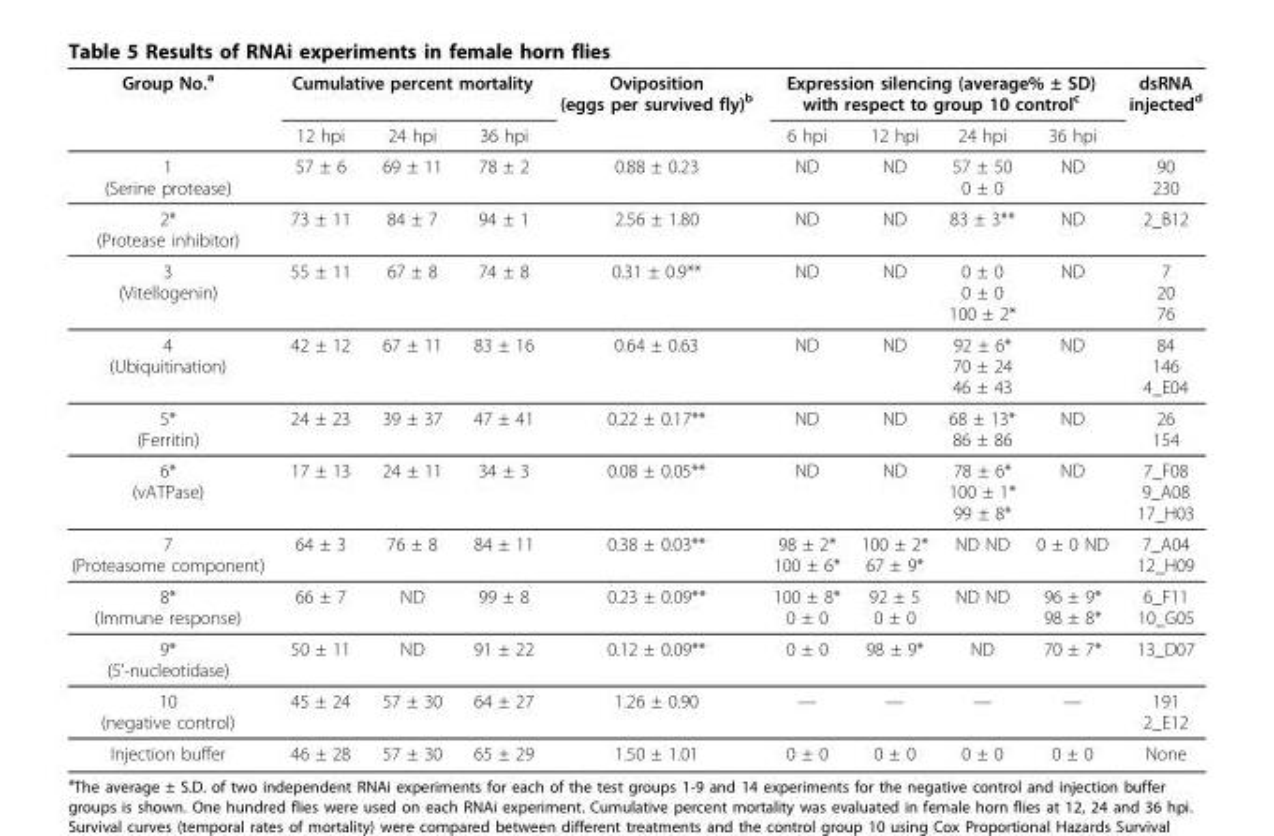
<table><thead><tr><td rowspan="2">Group No.<sup>a</sup></td><td colspan="3">Cumulative percent mortality</td><td rowspan="2">Oviposition (eggs per survived fly)<sup>b</sup></td><td colspan="4">Expression silencing (average% ± SD) with respect to group 10 control<sup>c</sup></td><td rowspan="2">dsRNA injected<sup>d</sup></td></tr><tr><td>12 hpi</td><td>24 hpi</td><td>36 hpi</td><td>6 hpi</td><td>12 hpi</td><td>24 hpi</td><td>36 hpi</td></tr></thead><tbody><tr><td>1 (Serine protease)</td><td>57 ± 6</td><td>69 ± 11</td><td>78 ± 2</td><td>0.88 ± 0.23</td><td>ND</td><td>ND</td><td>57 ± 50 0 ± 0</td><td>ND</td><td>90 230</td></tr><tr><td>2* (Protease inhibitor)</td><td>73 ± 11</td><td>84 ± 7</td><td>94 ± 1</td><td>2.56 ± 1.80</td><td>ND</td><td>ND</td><td>83 ± 3**</td><td>ND</td><td>2_B12</td></tr><tr><td>3 (Vitellogenin)</td><td>55 ± 11</td><td>67 ± 8</td><td>74 ± 8</td><td>0.31 ± 0.9**</td><td>ND</td><td>ND</td><td>0 ± 0 0 ± 0 100 ± 2*</td><td>ND</td><td>7 20 76</td></tr><tr><td>4 (Ubiquitination)</td><td>42 ± 12</td><td>67 ± 11</td><td>83 ± 16</td><td>0.64 ± 0.63</td><td>ND</td><td>ND</td><td>92 ± 6* 70 ± 24 46 ± 43</td><td>ND</td><td>84 146 4_E04</td></tr><tr><td>5* (Ferritin)</td><td>24 ± 23</td><td>39 ± 37</td><td>47 ± 41</td><td>0.22 ± 0.17**</td><td>ND</td><td>ND</td><td>68 ± 13* 86 ± 86</td><td>ND</td><td>26 154</td></tr><tr><td>6* (vATPase)</td><td>17 ± 13</td><td>24 ± 11</td><td>34 ± 3</td><td>0.08 ± 0.05**</td><td>ND</td><td>ND</td><td>78 ± 6* 100 ± 1* 99 ± 8*</td><td>ND</td><td>7_F08 9_A08 17_H03</td></tr><tr><td>7 (Proteasome component)</td><td>64 ± 3</td><td>76 ± 8</td><td>84 ± 11</td><td>0.38 ± 0.03**</td><td>98 ± 2* 100 ± 6*</td><td>100 ± 2* 67 ± 9*</td><td>ND ND</td><td>0 ± 0 ND</td><td>7_A04 12_H09</td></tr><tr><td>8* (Immune response)</td><td>66 ± 7</td><td>ND</td><td>99 ± 8</td><td>0.23 ± 0.09**</td><td>100 ± 8* 0 ± 0</td><td>92 ± 5 0 ± 0</td><td>ND ND</td><td>96 ± 9* 98 ± 8*</td><td>6_F11 10_G05</td></tr><tr><td>9* (5’-nucleotidase)</td><td>50 ± 11</td><td>ND</td><td>91 ± 22</td><td>0.12 ± 0.09**</td><td>0 ± 0</td><td>98 ± 9*</td><td>ND</td><td>70 ± 7*</td><td>13_D07</td></tr><tr><td>10 (negative control)</td><td>45 ± 24</td><td>57 ± 30</td><td>64 ± 27</td><td>1.26 ± 0.90</td><td>—</td><td>—</td><td>—</td><td>—</td><td>191 2_E12</td></tr><tr><td>Injection buffer</td><td>46 ± 28</td><td>57 ± 30</td><td>65 ± 29</td><td>1.50 ± 1.01</td><td>0 ± 0</td><td>0 ± 0</td><td>0 ± 0</td><td>0 ± 0</td><td>None</td></tr></tbody></table>